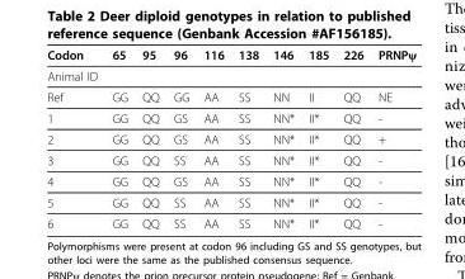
<table><thead><tr><td>Codon</td><td>65</td><td>95</td><td>96</td><td>116</td><td>138</td><td>146</td><td>185</td><td>226</td><td>PRNPψ</td></tr></thead><tbody><tr><td colspan="10">Animal ID</td></tr><tr><td>Ref</td><td>GG</td><td>QQ</td><td>GG</td><td>AA</td><td>SS</td><td>NN</td><td>II</td><td>QQ</td><td>NE</td></tr><tr><td>1</td><td>GG</td><td>QQ</td><td>GS</td><td>AA</td><td>SS</td><td>NN*</td><td>II*</td><td>QQ</td><td>-</td></tr><tr><td>2</td><td>GG</td><td>QQ</td><td>GS</td><td>AA</td><td>SS</td><td>NN*</td><td>II*</td><td>QQ</td><td>+</td></tr><tr><td>3</td><td>GG</td><td>QQ</td><td>SS</td><td>AA</td><td>SS</td><td>NN*</td><td>II*</td><td>QQ</td><td>-</td></tr><tr><td>4</td><td>GG</td><td>QQ</td><td>GS</td><td>AA</td><td>SS</td><td>NN*</td><td>II*</td><td>QQ</td><td>-</td></tr><tr><td>5</td><td>GG</td><td>QQ</td><td>SS</td><td>AA</td><td>SS</td><td>NN*</td><td>II*</td><td>QQ</td><td>-</td></tr><tr><td>6</td><td>GG</td><td>QQ</td><td>SS</td><td>AA</td><td>SS</td><td>NN*</td><td>II*</td><td>QQ</td><td>-</td></tr></tbody></table>